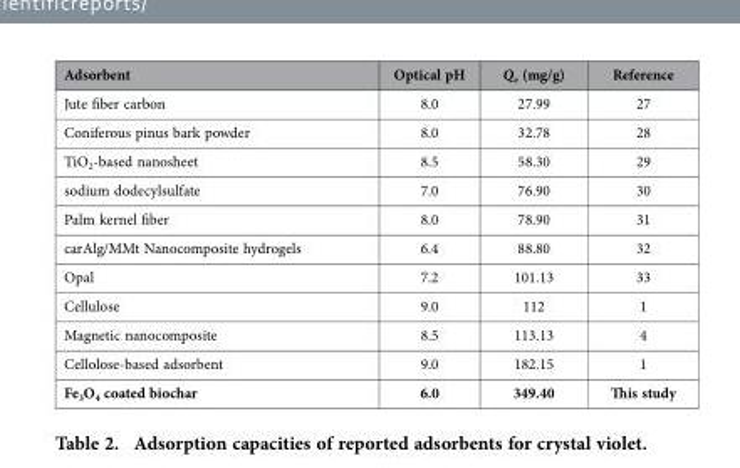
<table><thead><tr><td>Adsorbent</td><td>Optical pH</td><td>Q<sub>e</sub> (mg/g)</td><td>Reference</td></tr></thead><tbody><tr><td>Jute fiber carbon</td><td>8.0</td><td>27.99</td><td>27</td></tr><tr><td>Coniferous pinus bark powder</td><td>8.0</td><td>32.78</td><td>28</td></tr><tr><td>TiO<sub>2</sub>-based nanosheet</td><td>8.5</td><td>58.30</td><td>29</td></tr><tr><td>sodium dodecylsulfate</td><td>7.0</td><td>76.90</td><td>30</td></tr><tr><td>Palm kernel fiber</td><td>8.0</td><td>78.90</td><td>31</td></tr><tr><td>carAlg/MMt Nanocomposite hydrogels</td><td>6.4</td><td>88.80</td><td>32</td></tr><tr><td>Opal</td><td>7.2</td><td>101.13</td><td>33</td></tr><tr><td>Cellulose</td><td>9.0</td><td>112</td><td>1</td></tr><tr><td>Magnetic nanocomposite</td><td>8.5</td><td>113.13</td><td>4</td></tr><tr><td>Cellolose-based adsorbent</td><td>9.0</td><td>182.15</td><td>1</td></tr><tr><td>Fe<sub>3</sub>O<sub>4</sub> coated biochar</td><td>6.0</td><td>349.40</td><td>This study</td></tr></tbody></table>